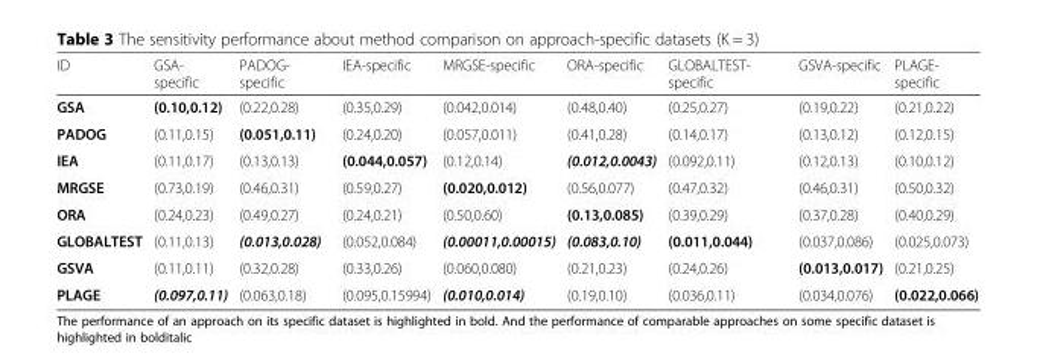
<table><thead><tr><td>ID</td><td>GSA- specific</td><td>PADOG- specific</td><td>IEA-specific</td><td>MRGSE-specific</td><td>ORA-specific</td><td>GLOBALTEST- specific</td><td>GSVA-specific</td><td>PLAGE- specific</td></tr></thead><tbody><tr><td>GSA</td><td>(0.10,0.12)</td><td>(0.22,0.28)</td><td>(0.35,0.29)</td><td>(0.042,0.014)</td><td>(0.48,0.40)</td><td>(0.25,0.27)</td><td>(0.19,0.22)</td><td>(0.21,0.22)</td></tr><tr><td>PADOG</td><td>(0.11,0.15)</td><td>(0.051,0.11)</td><td>(0.24,0.20)</td><td>(0.057,0.011)</td><td>(0.41,0.28)</td><td>(0.14,0.17)</td><td>(0.13,0.12)</td><td>(0.12,0.15)</td></tr><tr><td>IEA</td><td>(0.11,0.17)</td><td>(0.13,0.13)</td><td>(0.044,0.057)</td><td>(0.12,0.14)</td><td>(0.012,0.0043)</td><td>(0.092,0.11)</td><td>(0.12,0.13)</td><td>(0.10,0.12)</td></tr><tr><td>MRGSE</td><td>(0.73,0.19)</td><td>(0.46,0.31)</td><td>(0.59,0.27)</td><td>(0.020,0.012)</td><td>(0.56,0.077)</td><td>(0.47,0.32)</td><td>(0.46,0.31)</td><td>(0.50,0.32)</td></tr><tr><td>ORA</td><td>(0.24,0.23)</td><td>(0.49,0.27)</td><td>(0.24,0.21)</td><td>(0.50,0.60)</td><td>(0.13,0.085)</td><td>(0.39,0.29)</td><td>(0.37,0.28)</td><td>(0.40,0.29)</td></tr><tr><td>GLOBALTEST</td><td>(0.11,0.13)</td><td>(0.013,0.028)</td><td>(0.052,0.084)</td><td>(0.00011,0.00015)</td><td>(0.083,0.10)</td><td>(0.011,0.044)</td><td>(0.037,0.086)</td><td>(0.025,0.073)</td></tr><tr><td>GSVA</td><td>(0.11,0.11)</td><td>(0.32,0.28)</td><td>(0.33,0.26)</td><td>(0.060,0.080)</td><td>(0.21,0.23)</td><td>(0.24,0.26)</td><td>(0.013,0.017)</td><td>(0.21,0.25)</td></tr><tr><td>PLAGE</td><td>(0.097,0.11)</td><td>(0.063,0.18)</td><td>(0.095,0.15994)</td><td>(0.010,0.014)</td><td>(0.19,0.10)</td><td>(0.036,0.11)</td><td>(0.034,0.076)</td><td>(0.022,0.066)</td></tr></tbody></table>